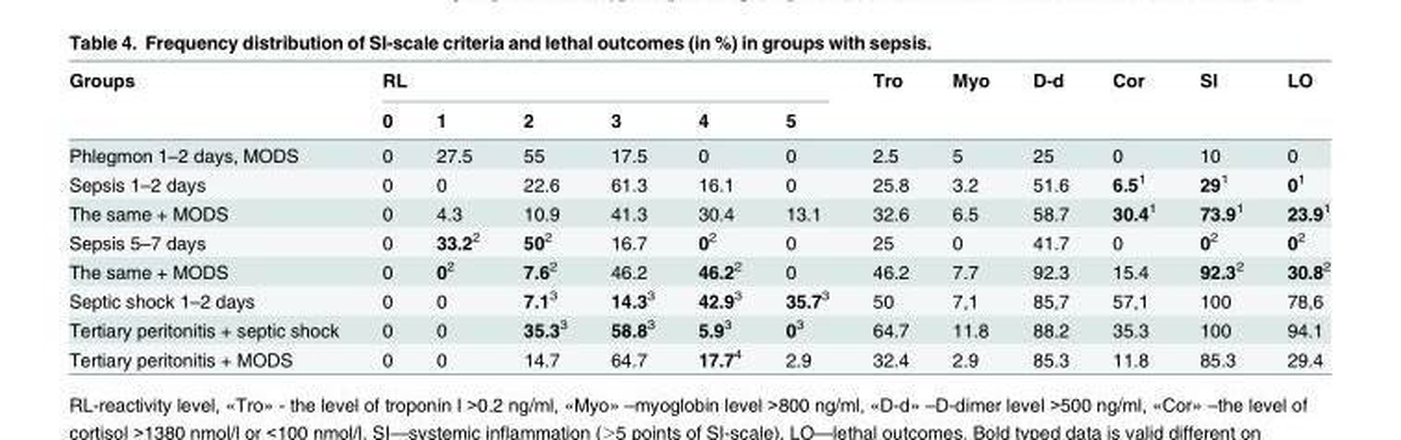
<table><thead><tr><td rowspan="2">Groups</td><td colspan="6">RL</td><td rowspan="2">Tro</td><td rowspan="2">Myo</td><td rowspan="2">D-d</td><td rowspan="2">Cor</td><td rowspan="2">SI</td><td rowspan="2">LO</td></tr><tr><td>0</td><td>1</td><td>2</td><td>3</td><td>4</td><td>5</td></tr></thead><tbody><tr><td>Phlegmon 1–2 days, MODS</td><td>0</td><td>27.5</td><td>55</td><td>17.5</td><td>0</td><td>0</td><td>2.5</td><td>5</td><td>25</td><td>0</td><td>10</td><td>0</td></tr><tr><td>Sepsis 1–2 days</td><td>0</td><td>0</td><td>22.6</td><td>61.3</td><td>16.1</td><td>0</td><td>25.8</td><td>3.2</td><td>51.6</td><td>6.5<sup>1</sup></td><td>29<sup>1</sup></td><td>0<sup>1</sup></td></tr><tr><td>The same + MODS</td><td>0</td><td>4.3</td><td>10.9</td><td>41.3</td><td>30.4</td><td>13.1</td><td>32.6</td><td>6.5</td><td>58.7</td><td>30.4<sup>1</sup></td><td>73.9<sup>1</sup></td><td>23.9<sup>1</sup></td></tr><tr><td>Sepsis 5–7 days</td><td>0</td><td>33.2<sup>2</sup></td><td>50<sup>2</sup></td><td>16.7</td><td>0<sup>2</sup></td><td>0</td><td>25</td><td>0</td><td>41.7</td><td>0</td><td>0<sup>2</sup></td><td>0<sup>2</sup></td></tr><tr><td>The same + MODS</td><td>0</td><td>0<sup>2</sup></td><td>7.6<sup>2</sup></td><td>46.2</td><td>46.2<sup>2</sup></td><td>0</td><td>46.2</td><td>7.7</td><td>92.3</td><td>15.4</td><td>92.3<sup>2</sup></td><td>30.8<sup>2</sup></td></tr><tr><td>Septic shock 1–2 days</td><td>0</td><td>0</td><td>7.1<sup>3</sup></td><td>14.3<sup>3</sup></td><td>42.9<sup>3</sup></td><td>35.7<sup>3</sup></td><td>50</td><td>7,1</td><td>85,7</td><td>57,1</td><td>100</td><td>78,6</td></tr><tr><td>Tertiary peritonitis + septic shock</td><td>0</td><td>0</td><td>35.3<sup>3</sup></td><td>58.8<sup>3</sup></td><td>5.9<sup>3</sup></td><td>0<sup>3</sup></td><td>64.7</td><td>11.8</td><td>88.2</td><td>35.3</td><td>100</td><td>94.1</td></tr><tr><td>Tertiary peritonitis + MODS</td><td>0</td><td>0</td><td>14.7</td><td>64.7</td><td>17.7<sup>4</sup></td><td>2.9</td><td>32.4</td><td>2.9</td><td>85.3</td><td>11.8</td><td>85.3</td><td>29.4</td></tr></tbody></table>